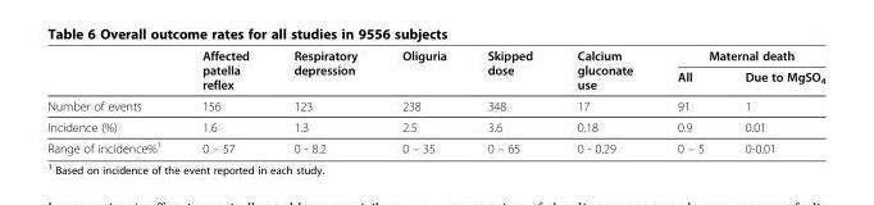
<table><thead><tr><td rowspan="2"></td><td rowspan="2">Affected patella reflex</td><td rowspan="2">Respiratory depression</td><td rowspan="2">Oliguria</td><td rowspan="2">Skipped dose</td><td rowspan="2">Calcium gluconate use</td><td colspan="2">Maternal death</td></tr><tr><td>All</td><td>Due to MgSO<sub>4</sub></td></tr></thead><tbody><tr><td>Number of events</td><td>156</td><td>123</td><td>238</td><td>348</td><td>17</td><td>91</td><td>1</td></tr><tr><td>Incidence (%)</td><td>1.6</td><td>1.3</td><td>2.5</td><td>3.6</td><td>0.18</td><td>0.9</td><td>0.01</td></tr><tr><td>Range of incidence%<sup>1</sup></td><td>0 – 57</td><td>0 - 8.2</td><td>0 – 35</td><td>0 – 65</td><td>0 - 0.29</td><td>0 – 5</td><td>0-0.01</td></tr></tbody></table>